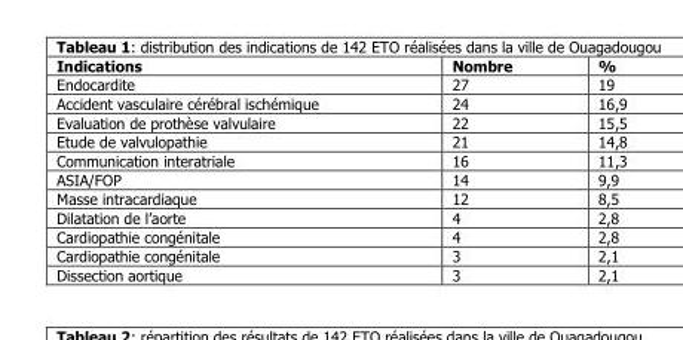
<table><thead><tr><td>Indications</td><td>Nombre</td><td>%</td></tr></thead><tbody><tr><td>Endocardite</td><td>27</td><td>19</td></tr><tr><td>Accident vasculaire cérébral ischémique</td><td>24</td><td>16,9</td></tr><tr><td>Evaluation de prothèse valvulaire</td><td>22</td><td>15,5</td></tr><tr><td>Etude de valvulopathie</td><td>21</td><td>14,8</td></tr><tr><td>Communication interatriale</td><td>16</td><td>11,3</td></tr><tr><td>ASIA/FOP</td><td>14</td><td>9,9</td></tr><tr><td>Masse intracardiaque</td><td>12</td><td>8,5</td></tr><tr><td>Dilatation de l’aorte</td><td>4</td><td>2,8</td></tr><tr><td>Cardiopathie congénitale</td><td>4</td><td>2,8</td></tr><tr><td>Cardiopathie congénitale</td><td>3</td><td>2,1</td></tr><tr><td>Dissection aortique</td><td>3</td><td>2,1</td></tr></tbody></table>